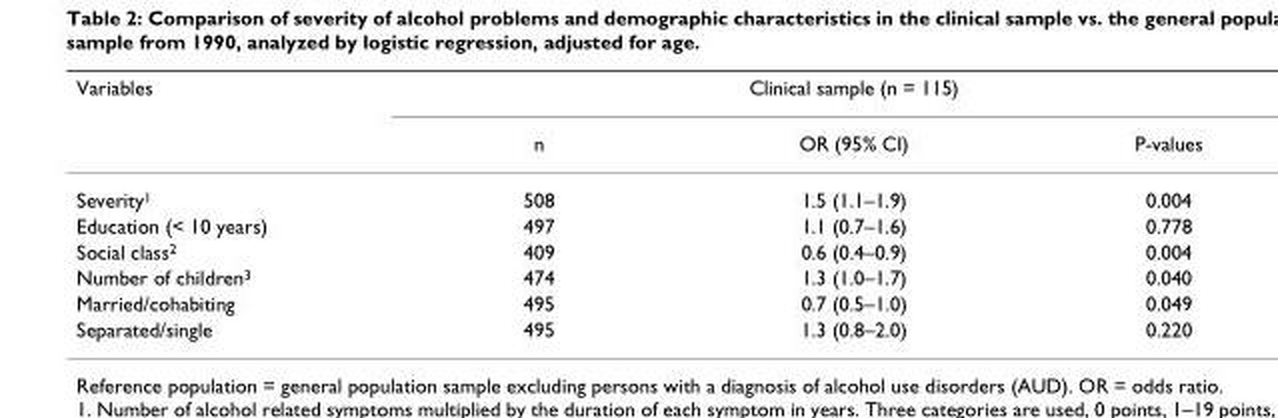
<table><thead><tr><td rowspan="2">Variables</td><td colspan="3">Clinical sample (n = 115)</td></tr><tr><td>n</td><td>OR (95% CI)</td><td>P-values</td></tr></thead><tbody><tr><td>Severity<sup>1</sup></td><td>508</td><td>1.5 (1.1–1.9)</td><td>0.004</td></tr><tr><td>Education (&lt; 10 years)</td><td>497</td><td>1.1 (0.7–1.6)</td><td>0.778</td></tr><tr><td>Social class<sup>2</sup></td><td>409</td><td>0.6 (0.4–0.9)</td><td>0.004</td></tr><tr><td>Number of children<sup>3</sup></td><td>474</td><td>1.3 (1.0–1.7)</td><td>0.040</td></tr><tr><td>Married/cohabiting</td><td>495</td><td>0.7 (0.5–1.0)</td><td>0.049</td></tr><tr><td>Separated/single</td><td>495</td><td>1.3 (0.8–2.0)</td><td>0.220</td></tr></tbody></table>